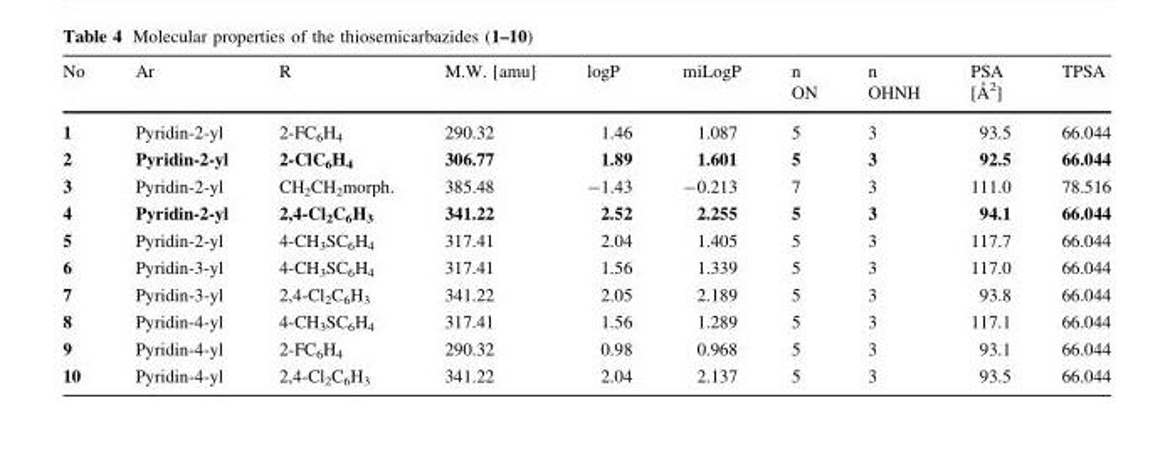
<table><thead><tr><td rowspan="2">No</td><td rowspan="2">Ar</td><td rowspan="2">R</td><td rowspan="2">M.W. [amu]</td><td rowspan="2">logP</td><td rowspan="2">miLogP</td><td rowspan="2">n ON</td><td rowspan="2">n OHNH</td><td rowspan="2">PSA [A˚ 2]</td><td rowspan="2">TPSA</td></tr><tr></tr></thead><tbody><tr><td>1</td><td>Pyridin-2-yl</td><td>2-FC<sub>6</sub>H<sub>4</sub></td><td>290.32</td><td>1.46</td><td>1.087</td><td>5</td><td>3</td><td>93.5</td><td>66.044</td></tr><tr><td>2</td><td>Pyridin-2-yl</td><td>2-ClC<sub>6</sub>H<sub>4</sub></td><td>306.77</td><td>1.89</td><td>1.601</td><td>5</td><td>3</td><td>92.5</td><td>66.044</td></tr><tr><td>3</td><td>Pyridin-2-yl</td><td>CH<sub>2</sub>CH<sub>2</sub>morph.</td><td>385.48</td><td>-1.43</td><td>-0.213</td><td>7</td><td>3</td><td>111.0</td><td>78.516</td></tr><tr><td>4</td><td>Pyridin-2-yl</td><td>2,4-Cl<sub>2</sub>C<sub>6</sub>H<sub>3</sub></td><td>341.22</td><td>2.52</td><td>2.255</td><td>5</td><td>3</td><td>94.1</td><td>66.044</td></tr><tr><td>5</td><td>Pyridin-2-yl</td><td>4-CH<sub>3</sub>SC<sub>6</sub>H<sub>4</sub></td><td>317.41</td><td>2.04</td><td>1.405</td><td>5</td><td>3</td><td>117.7</td><td>66.044</td></tr><tr><td>6</td><td>Pyridin-3-yl</td><td>4-CH<sub>3</sub>SC<sub>6</sub>H<sub>4</sub></td><td>317.41</td><td>1.56</td><td>1.339</td><td>5</td><td>3</td><td>117.0</td><td>66.044</td></tr><tr><td>7</td><td>Pyridin-3-yl</td><td>2,4-Cl<sub>2</sub>C<sub>6</sub>H<sub>3</sub></td><td>341.22</td><td>2.05</td><td>2.189</td><td>5</td><td>3</td><td>93.8</td><td>66.044</td></tr><tr><td>8</td><td>Pyridin-4-yl</td><td>4-CH<sub>3</sub>SC<sub>6</sub>H<sub>4</sub></td><td>317.41</td><td>1.56</td><td>1.289</td><td>5</td><td>3</td><td>117.1</td><td>66.044</td></tr><tr><td>9</td><td>Pyridin-4-yl</td><td>2-FC<sub>6</sub>H<sub>4</sub></td><td>290.32</td><td>0.98</td><td>0.968</td><td>5</td><td>3</td><td>93.1</td><td>66.044</td></tr><tr><td>10</td><td>Pyridin-4-yl</td><td>2,4-Cl<sub>2</sub>C<sub>6</sub>H<sub>3</sub></td><td>341.22</td><td>2.04</td><td>2.137</td><td>5</td><td>3</td><td>93.5</td><td>66.044</td></tr></tbody></table>